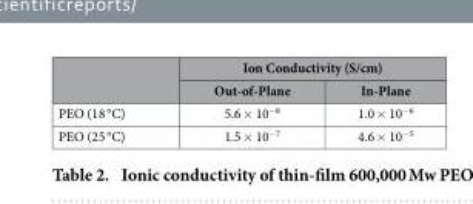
<table><thead><tr><td rowspan="2"></td><td colspan="2">Ion Conductivity (S/cm)</td></tr><tr><td>Out-of-Plane</td><td>In-Plane</td></tr></thead><tbody><tr><td>PEO (18 °C)</td><td>5.6 × 10<sup>−8</sup></td><td>1.0 × 10<sup>−6</sup></td></tr><tr><td>PEO (25 °C)</td><td>1.5 × 10<sup>−7</sup></td><td>4.6 × 10<sup>−5</sup></td></tr></tbody></table>